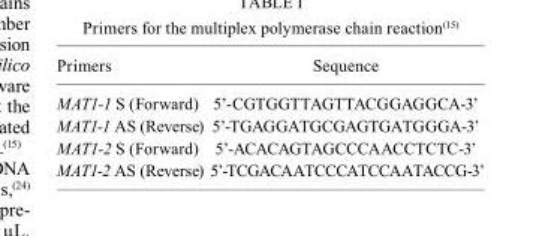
<table><tbody><tr><td>Primers</td><td>Sequence</td></tr><tr><td>MAT1-1 S (Forward)</td><td>5’-CGTGGTTAGTTACGGAGGCA-3’</td></tr><tr><td>MAT1-1 AS (Reverse)</td><td>5’-TGAGGATGCGAGTGATGGGA-3’</td></tr><tr><td>MAT1-2 S (Forward)</td><td>5’-ACACAGTAGCCCAACCTCTC-3’</td></tr><tr><td>MAT1-2 AS (Reverse)</td><td>5’-TCGACAATCCCATCCAATACCG-3’</td></tr></tbody></table>